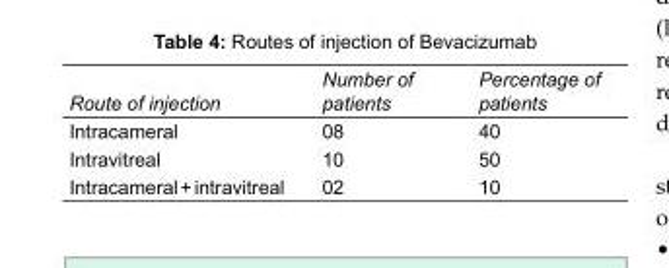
<table><tbody><tr><td>Route of injection</td><td>Number of patients</td><td>Percentage of patients</td></tr><tr><td>Intracameral</td><td>08</td><td>40</td></tr><tr><td>Intravitreal</td><td>10</td><td>50</td></tr><tr><td>Intracameral + intravitreal</td><td>02</td><td>10</td></tr></tbody></table>